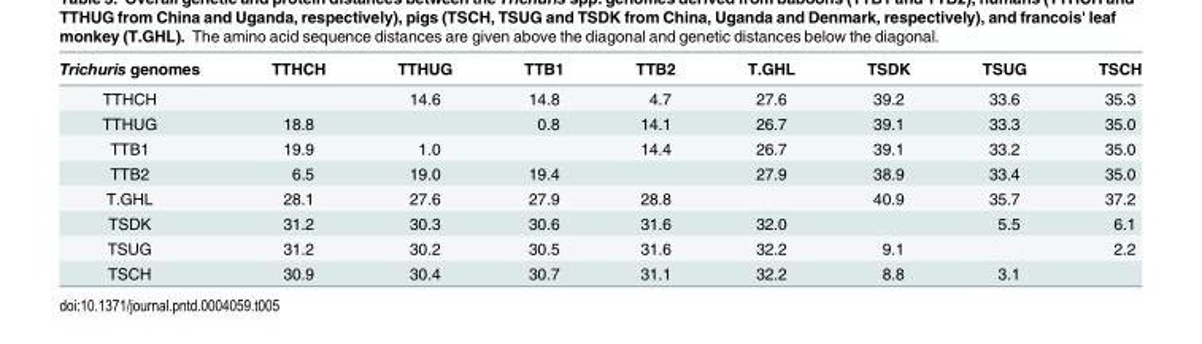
<table><thead><tr><td>Trichuris genomes</td><td>TTHCH</td><td>TTHUG</td><td>TTB1</td><td>TTB2</td><td>T.GHL</td><td>TSDK</td><td>TSUG</td><td>TSCH</td></tr></thead><tbody><tr><td>TTHCH</td><td></td><td>14.6</td><td>14.8</td><td>4.7</td><td>27.6</td><td>39.2</td><td>33.6</td><td>35.3</td></tr><tr><td>TTHUG</td><td>18.8</td><td></td><td>0.8</td><td>14.1</td><td>26.7</td><td>39.1</td><td>33.3</td><td>35.0</td></tr><tr><td>TTB1</td><td>19.9</td><td>1.0</td><td></td><td>14.4</td><td>26.7</td><td>39.1</td><td>33.2</td><td>35.0</td></tr><tr><td>TTB2</td><td>6.5</td><td>19.0</td><td>19.4</td><td></td><td>27.9</td><td>38.9</td><td>33.4</td><td>35.0</td></tr><tr><td>T.GHL</td><td>28.1</td><td>27.6</td><td>27.9</td><td>28.8</td><td></td><td>40.9</td><td>35.7</td><td>37.2</td></tr><tr><td>TSDK</td><td>31.2</td><td>30.3</td><td>30.6</td><td>31.6</td><td>32.0</td><td></td><td>5.5</td><td>6.1</td></tr><tr><td>TSUG</td><td>31.2</td><td>30.2</td><td>30.5</td><td>31.6</td><td>32.2</td><td>9.1</td><td></td><td>2.2</td></tr><tr><td>TSCH</td><td>30.9</td><td>30.4</td><td>30.7</td><td>31.1</td><td>32.2</td><td>8.8</td><td>3.1</td><td></td></tr></tbody></table>